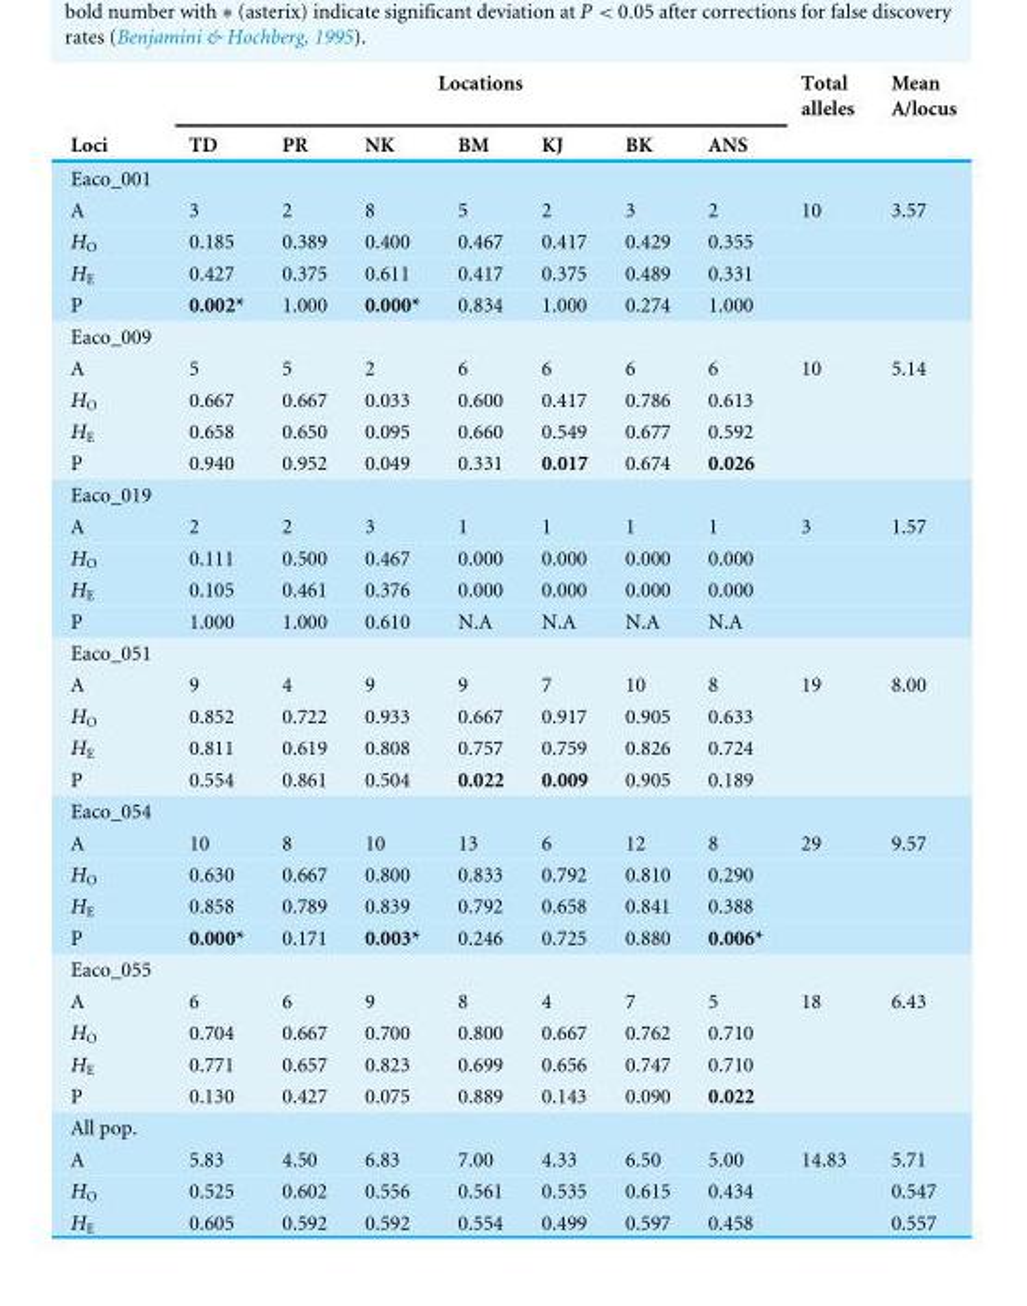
<table><thead><tr><td rowspan="2">Loci</td><td colspan="7">Locations</td><td rowspan="2">Total alleles</td><td rowspan="2">Mean A/locus</td></tr><tr><td>TD</td><td>PR</td><td>NK</td><td>BM</td><td>KJ</td><td>BK</td><td>ANS</td></tr></thead><tbody><tr><td colspan="10">Eaco_001</td></tr><tr><td>A</td><td>3</td><td>2</td><td>8</td><td>5</td><td>2</td><td>3</td><td>2</td><td>10</td><td>3.57</td></tr><tr><td>H<sub>O</sub></td><td>0.185</td><td>0.389</td><td>0.400</td><td>0.467</td><td>0.417</td><td>0.429</td><td>0.355</td><td></td><td></td></tr><tr><td>H<sub>E</sub></td><td>0.427</td><td>0.375</td><td>0.611</td><td>0.417</td><td>0.375</td><td>0.489</td><td>0.331</td><td></td><td></td></tr><tr><td>P</td><td>0.002*</td><td>1.000</td><td>0.000*</td><td>0.834</td><td>1.000</td><td>0.274</td><td>1.000</td><td></td><td></td></tr><tr><td colspan="10">Eaco_009</td></tr><tr><td>A</td><td>5</td><td>5</td><td>2</td><td>6</td><td>6</td><td>6</td><td>6</td><td>10</td><td>5.14</td></tr><tr><td>H<sub>O</sub></td><td>0.667</td><td>0.667</td><td>0.033</td><td>0.600</td><td>0.417</td><td>0.786</td><td>0.613</td><td></td><td></td></tr><tr><td>H<sub>E</sub></td><td>0.658</td><td>0.650</td><td>0.095</td><td>0.660</td><td>0.549</td><td>0.677</td><td>0.592</td><td></td><td></td></tr><tr><td>P</td><td>0.940</td><td>0.952</td><td>0.049</td><td>0.331</td><td>0.017</td><td>0.674</td><td>0.026</td><td></td><td></td></tr><tr><td colspan="10">Eaco_019</td></tr><tr><td>A</td><td>2</td><td>2</td><td>3</td><td>1</td><td>1</td><td>1</td><td>1</td><td>3</td><td>1.57</td></tr><tr><td>H<sub>O</sub></td><td>0.111</td><td>0.500</td><td>0.467</td><td>0.000</td><td>0.000</td><td>0.000</td><td>0.000</td><td></td><td></td></tr><tr><td>H<sub>E</sub></td><td>0.105</td><td>0.461</td><td>0.376</td><td>0.000</td><td>0.000</td><td>0.000</td><td>0.000</td><td></td><td></td></tr><tr><td>P</td><td>1.000</td><td>1.000</td><td>0.610</td><td>N.A</td><td>N.A</td><td>N.A</td><td>N.A</td><td></td><td></td></tr><tr><td colspan="10">Eaco_051</td></tr><tr><td>A</td><td>9</td><td>4</td><td>9</td><td>9</td><td>7</td><td>10</td><td>8</td><td>19</td><td>8.00</td></tr><tr><td>H<sub>O</sub></td><td>0.852</td><td>0.722</td><td>0.933</td><td>0.667</td><td>0.917</td><td>0.905</td><td>0.633</td><td></td><td></td></tr><tr><td>H<sub>E</sub></td><td>0.811</td><td>0.619</td><td>0.808</td><td>0.757</td><td>0.759</td><td>0.826</td><td>0.724</td><td></td><td></td></tr><tr><td>P</td><td>0.554</td><td>0.861</td><td>0.504</td><td>0.022</td><td>0.009</td><td>0.905</td><td>0.189</td><td></td><td></td></tr><tr><td colspan="10">Eaco_054</td></tr><tr><td>A</td><td>10</td><td>8</td><td>10</td><td>13</td><td>6</td><td>12</td><td>8</td><td>29</td><td>9.57</td></tr><tr><td>H<sub>O</sub></td><td>0.630</td><td>0.667</td><td>0.800</td><td>0.833</td><td>0.792</td><td>0.810</td><td>0.290</td><td></td><td></td></tr><tr><td>H<sub>E</sub></td><td>0.858</td><td>0.789</td><td>0.839</td><td>0.792</td><td>0.658</td><td>0.841</td><td>0.388</td><td></td><td></td></tr><tr><td>P</td><td>0.000*</td><td>0.171</td><td>0.003*</td><td>0.246</td><td>0.725</td><td>0.880</td><td>0.006*</td><td></td><td></td></tr><tr><td colspan="10">Eaco_055</td></tr><tr><td>A</td><td>6</td><td>6</td><td>9</td><td>8</td><td>4</td><td>7</td><td>5</td><td>18</td><td>6.43</td></tr><tr><td>H<sub>O</sub></td><td>0.704</td><td>0.667</td><td>0.700</td><td>0.800</td><td>0.667</td><td>0.762</td><td>0.710</td><td></td><td></td></tr><tr><td>H<sub>E</sub></td><td>0.771</td><td>0.657</td><td>0.823</td><td>0.699</td><td>0.656</td><td>0.747</td><td>0.710</td><td></td><td></td></tr><tr><td>P</td><td>0.130</td><td>0.427</td><td>0.075</td><td>0.889</td><td>0.143</td><td>0.090</td><td>0.022</td><td></td><td></td></tr><tr><td colspan="10">All pop.</td></tr><tr><td>A</td><td>5.83</td><td>4.50</td><td>6.83</td><td>7.00</td><td>4.33</td><td>6.50</td><td>5.00</td><td>14.83</td><td>5.71</td></tr><tr><td>H<sub>O</sub></td><td>0.525</td><td>0.602</td><td>0.556</td><td>0.561</td><td>0.535</td><td>0.615</td><td>0.434</td><td></td><td>0.547</td></tr><tr><td>H<sub>E</sub></td><td>0.605</td><td>0.592</td><td>0.592</td><td>0.554</td><td>0.499</td><td>0.597</td><td>0.458</td><td></td><td>0.557</td></tr></tbody></table>